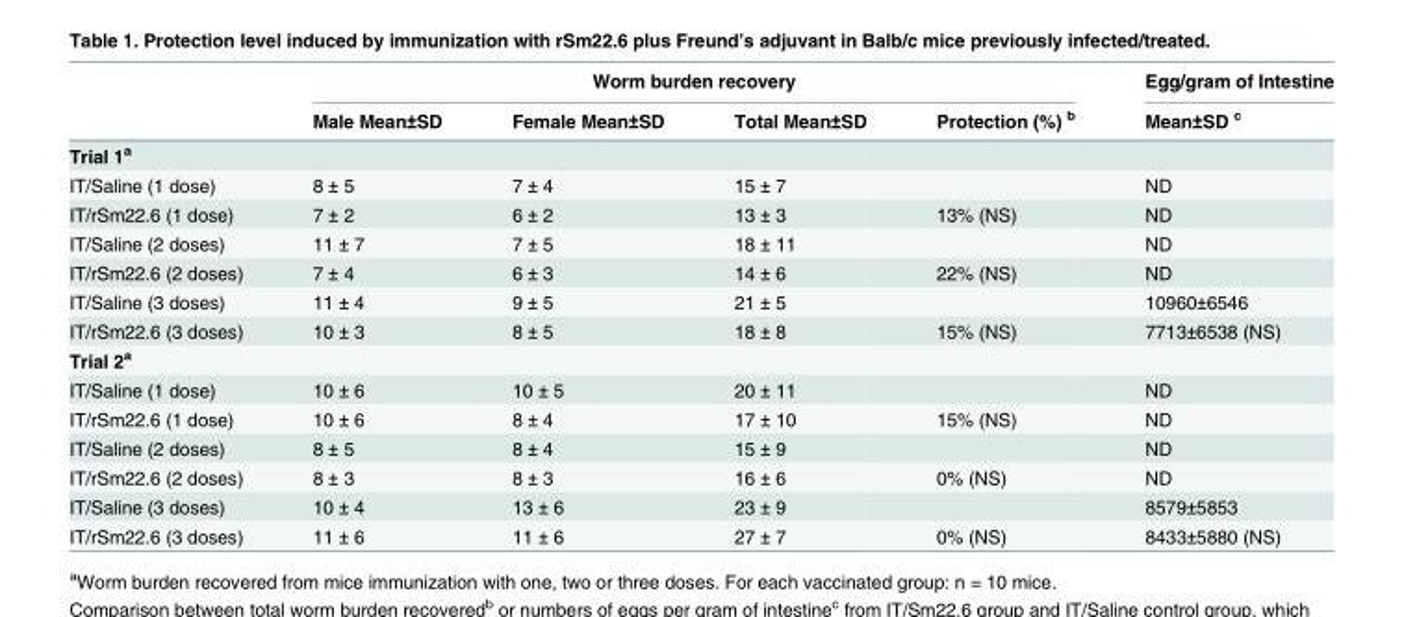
<table><thead><tr><td rowspan="2"></td><td colspan="4">Worm burden recovery</td><td rowspan="2">Egg/gram of Intestine Mean±SD <sup>c</sup></td></tr><tr><td>Male Mean±SD</td><td>Female Mean±SD</td><td>Total Mean±SD</td><td>Protection (%) <sup>b</sup></td></tr></thead><tbody><tr><td colspan="6">Trial 1<sup>a</sup></td></tr><tr><td>IT/Saline (1 dose)</td><td>8 ± 5</td><td>7 ± 4</td><td>15 ± 7</td><td></td><td>ND</td></tr><tr><td>IT/rSm22.6 (1 dose)</td><td>7 ± 2</td><td>6 ± 2</td><td>13 ± 3</td><td>13% (NS)</td><td>ND</td></tr><tr><td>IT/Saline (2 doses)</td><td>11 ± 7</td><td>7 ± 5</td><td>18 ± 11</td><td></td><td>ND</td></tr><tr><td>IT/rSm22.6 (2 doses)</td><td>7 ± 4</td><td>6 ± 3</td><td>14 ± 6</td><td>22% (NS)</td><td>ND</td></tr><tr><td>IT/Saline (3 doses)</td><td>11 ± 4</td><td>9 ± 5</td><td>21 ± 5</td><td></td><td>10960±6546</td></tr><tr><td>IT/rSm22.6 (3 doses)</td><td>10 ± 3</td><td>8 ± 5</td><td>18 ± 8</td><td>15% (NS)</td><td>7713±6538 (NS)</td></tr><tr><td colspan="6">Trial 2<sup>a</sup></td></tr><tr><td>IT/Saline (1 dose)</td><td>10 ± 6</td><td>10 ± 5</td><td>20 ± 11</td><td></td><td>ND</td></tr><tr><td>IT/rSm22.6 (1 dose)</td><td>10 ± 6</td><td>8 ± 4</td><td>17 ± 10</td><td>15% (NS)</td><td>ND</td></tr><tr><td>IT/Saline (2 doses)</td><td>8 ± 5</td><td>8 ± 4</td><td>15 ± 9</td><td></td><td>ND</td></tr><tr><td>IT/rSm22.6 (2 doses)</td><td>8 ± 3</td><td>8 ± 3</td><td>16 ± 6</td><td>0% (NS)</td><td>ND</td></tr><tr><td>IT/Saline (3 doses)</td><td>10 ± 4</td><td>13 ± 6</td><td>23 ± 9</td><td></td><td>8579±5853</td></tr><tr><td>IT/rSm22.6 (3 doses)</td><td>11 ± 6</td><td>11 ± 6</td><td>27 ± 7</td><td>0% (NS)</td><td>8433±5880 (NS)</td></tr></tbody></table>